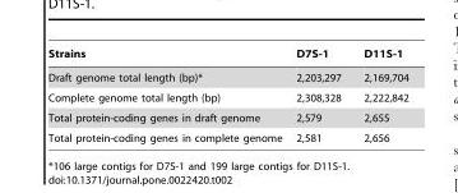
<table><thead><tr><td>Strains</td><td>D7S-1</td><td>D11S-1</td></tr></thead><tbody><tr><td>Draft genome total length (bp)*</td><td>2,203,297</td><td>2,169,704</td></tr><tr><td>Complete genome total length (bp)</td><td>2,308,328</td><td>2,222,842</td></tr><tr><td>Total protein-coding genes in draft genome</td><td>2,579</td><td>2,655</td></tr><tr><td>Total protein-coding genes in complete genome</td><td>2,581</td><td>2,656</td></tr></tbody></table>